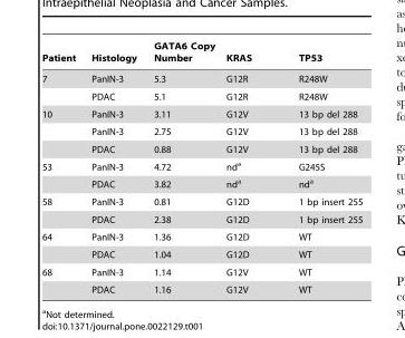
<table><thead><tr><td>Patient</td><td>Histology</td><td>GATA6 Copy Number</td><td>KRAS</td><td>TP53</td></tr></thead><tbody><tr><td rowspan="2">7</td><td>PanIN-3</td><td>5.3</td><td>G12R</td><td>R248W</td></tr><tr><td>PDAC</td><td>5.1</td><td>G12R</td><td>R248W</td></tr><tr><td rowspan="3">10</td><td>PanIN-3</td><td>3.11</td><td>G12V</td><td>13 bp del 288</td></tr><tr><td>PanIN-3</td><td>2.75</td><td>G12V</td><td>13 bp del 288</td></tr><tr><td>PDAC</td><td>0.88</td><td>G12V</td><td>13 bp del 288</td></tr><tr><td rowspan="2">53</td><td>PanIN-3</td><td>4.72</td><td>nd<sup>a</sup></td><td>G245S</td></tr><tr><td>PDAC</td><td>3.82</td><td>nd<sup>a</sup></td><td>nd<sup>a</sup></td></tr><tr><td rowspan="2">58</td><td>PanIN-3</td><td>0.81</td><td>G12D</td><td>1 bp insert 255</td></tr><tr><td>PDAC</td><td>2.38</td><td>G12D</td><td>1 bp insert 255</td></tr><tr><td rowspan="2">64</td><td>PanIN-3</td><td>1.36</td><td>G12D</td><td>WT</td></tr><tr><td>PDAC</td><td>1.04</td><td>G12D</td><td>WT</td></tr><tr><td rowspan="2">68</td><td>PanIN-3</td><td>1.14</td><td>G12V</td><td>WT</td></tr><tr><td>PDAC</td><td>1.16</td><td>G12V</td><td>WT</td></tr></tbody></table>